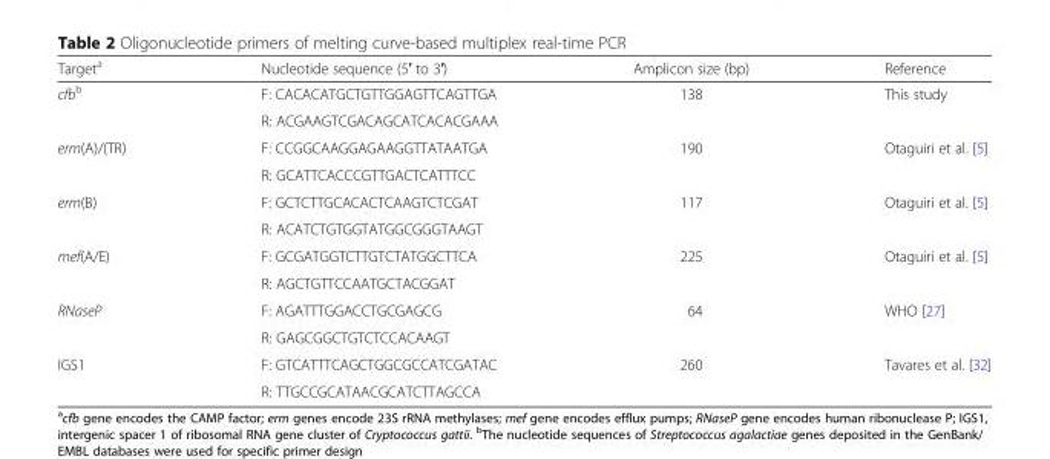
<table><thead><tr><td>Target<sup>a</sup></td><td>Nucleotide sequence (5′ to 3′)</td><td>Amplicon size (bp)</td><td>Reference</td></tr></thead><tbody><tr><td rowspan="2">cfb<sup>b</sup></td><td>F: CACACATGCTGTTGGAGTTCAGTTGA</td><td rowspan="2">138</td><td>This study</td></tr><tr><td>R: ACGAAGTCGACAGCATCACACGAAA</td><td></td></tr><tr><td rowspan="2">erm(A)/(TR)</td><td>F: CCGGCAAGGAGAAGGTTATAATGA</td><td rowspan="2">190</td><td>Otaguiri et al. [5]</td></tr><tr><td>R: GCATTCACCCGTTGACTCATTTCC</td><td></td></tr><tr><td rowspan="2">erm(B)</td><td>F: GCTCTTGCACACTCAAGTCTCGAT</td><td rowspan="2">117</td><td>Otaguiri et al. [5]</td></tr><tr><td>R: ACATCTGTGGTATGGCGGGTAAGT</td><td></td></tr><tr><td rowspan="2">mef(A/E)</td><td>F: GCGATGGTCTTGTCTATGGCTTCA</td><td rowspan="2">225</td><td>Otaguiri et al. [5]</td></tr><tr><td>R: AGCTGTTCCAATGCTACGGAT</td><td></td></tr><tr><td rowspan="2">RNaseP</td><td>F: AGATTTGGACCTGCGAGCG</td><td rowspan="2">64</td><td>WHO [27]</td></tr><tr><td>R: GAGCGGCTGTCTCCACAAGT</td><td></td></tr><tr><td rowspan="2">IGS1</td><td>F: GTCATTTCAGCTGGCGCCATCGATAC</td><td>260</td><td>Tavares et al. [32]</td></tr><tr><td>R: TTGCCGCATAACGCATCTTAGCCA</td><td></td><td></td></tr></tbody></table>